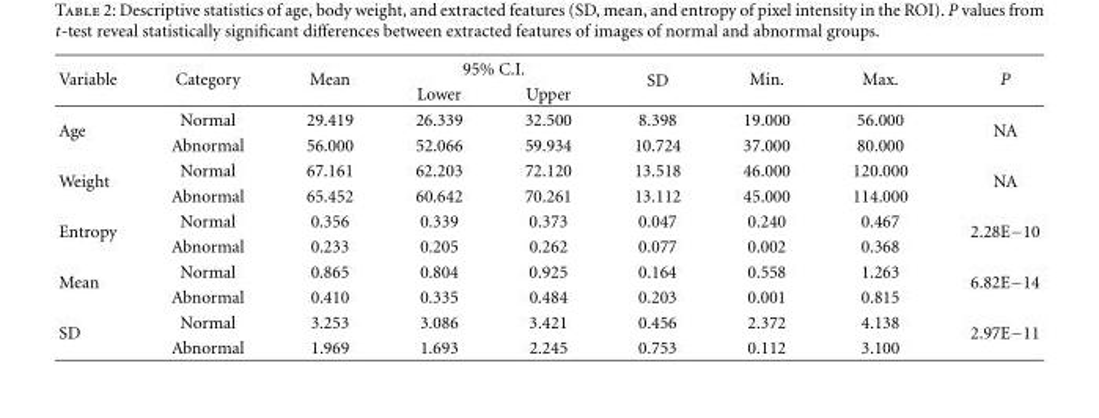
<table><thead><tr><td rowspan="2">Variable</td><td rowspan="2">Category</td><td rowspan="2">Mean</td><td colspan="2">95% C.I.</td><td rowspan="2">SD</td><td rowspan="2">Min.</td><td rowspan="2">Max.</td><td rowspan="2">P</td></tr><tr><td>Lower</td><td>Upper</td></tr></thead><tbody><tr><td rowspan="2">Age</td><td>Normal</td><td>29.419</td><td>26.339</td><td>32.500</td><td>8.398</td><td>19.000</td><td>56.000</td><td rowspan="2">NA</td></tr><tr><td>Abnormal</td><td>56.000</td><td>52.066</td><td>59.934</td><td>10.724</td><td>37.000</td><td>80.000</td></tr><tr><td rowspan="2">Weight</td><td>Normal</td><td>67.161</td><td>62.203</td><td>72.120</td><td>13.518</td><td>46.000</td><td>120.000</td><td rowspan="2">NA</td></tr><tr><td>Abnormal</td><td>65.452</td><td>60.642</td><td>70.261</td><td>13.112</td><td>45.000</td><td>114.000</td></tr><tr><td rowspan="2">Entropy</td><td>Normal</td><td>0.356</td><td>0.339</td><td>0.373</td><td>0.047</td><td>0.240</td><td>0.467</td><td rowspan="2">2.28E−10</td></tr><tr><td>Abnormal</td><td>0.233</td><td>0.205</td><td>0.262</td><td>0.077</td><td>0.002</td><td>0.368</td></tr><tr><td rowspan="2">Mean</td><td>Normal</td><td>0.865</td><td>0.804</td><td>0.925</td><td>0.164</td><td>0.558</td><td>1.263</td><td rowspan="2">6.82E−14</td></tr><tr><td>Abnormal</td><td>0.410</td><td>0.335</td><td>0.484</td><td>0.203</td><td>0.001</td><td>0.815</td></tr><tr><td rowspan="2">SD</td><td>Normal</td><td>3.253</td><td>3.086</td><td>3.421</td><td>0.456</td><td>2.372</td><td>4.138</td><td rowspan="2">2.97E−11</td></tr><tr><td>Abnormal</td><td>1.969</td><td>1.693</td><td>2.245</td><td>0.753</td><td>0.112</td><td>3.100</td></tr></tbody></table>